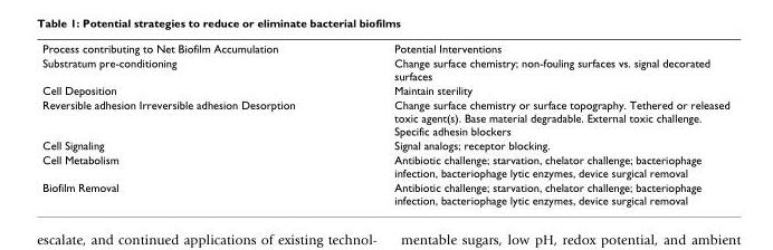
<table><tbody><tr><td>Process contributing to Net Biofilm Accumulation</td><td>Potential Interventions</td></tr><tr><td>Substratum pre-conditioning</td><td>Change surface chemistry; non-fouling surfaces vs. signal decorated surfaces</td></tr><tr><td>Cell Deposition</td><td>Maintain sterility</td></tr><tr><td>Reversible adhesion Irreversible adhesion Desorption</td><td>Change surface chemistry or surface topography. Tethered or released toxic agent(s). Base material degradable. External toxic challenge. Specific adhesin blockers</td></tr><tr><td>Cell Signaling</td><td>Signal analogs; receptor blocking.</td></tr><tr><td>Cell Metabolism</td><td>Antibiotic challenge; starvation, chelator challenge; bacteriophage infection, bacteriophage lytic enzymes, device surgical removal</td></tr><tr><td>Biofilm Removal</td><td>Antibiotic challenge; starvation, chelator challenge; bacteriophage infection, bacteriophage lytic enzymes, device surgical removal</td></tr></tbody></table>